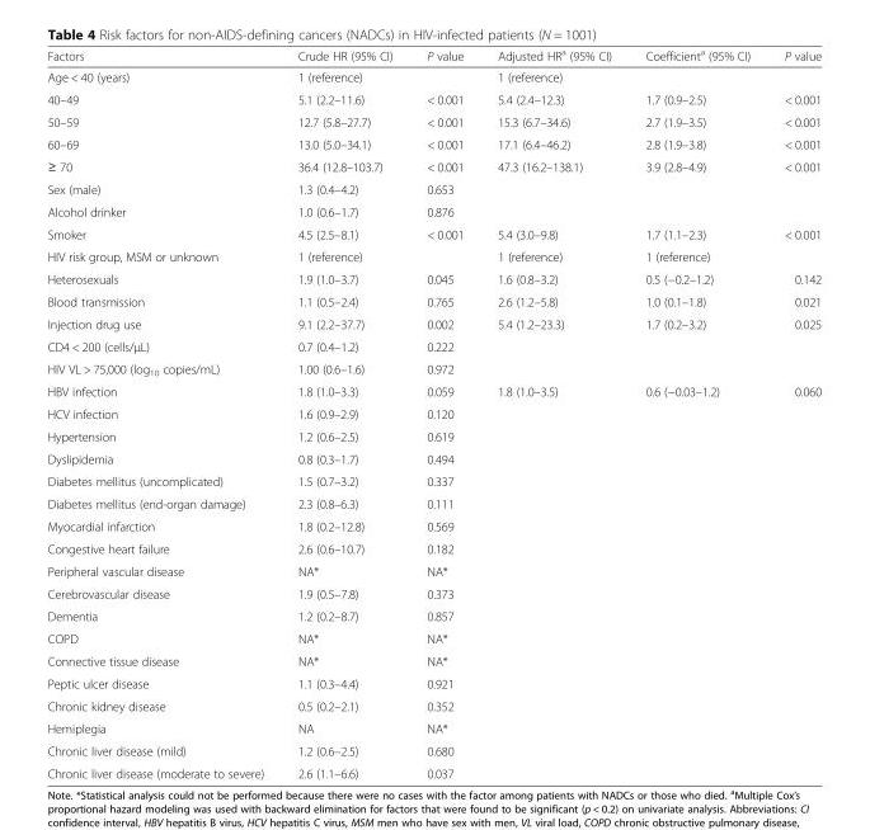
<table><thead><tr><td>Factors</td><td>Crude HR (95% CI)</td><td>P value</td><td>Adjusted HR<sup>a</sup> (95% CI)</td><td>Coefficient<sup>a</sup> (95% CI)</td><td>P value</td></tr></thead><tbody><tr><td>Age &lt; 40 (years)</td><td>1 (reference)</td><td></td><td>1 (reference)</td><td></td><td></td></tr><tr><td>40–49</td><td>5.1 (2.2–11.6)</td><td>&lt; 0.001</td><td>5.4 (2.4–12.3)</td><td>1.7 (0.9–2.5)</td><td>&lt; 0.001</td></tr><tr><td>50–59</td><td>12.7 (5.8–27.7)</td><td>&lt; 0.001</td><td>15.3 (6.7–34.6)</td><td>2.7 (1.9–3.5)</td><td>&lt; 0.001</td></tr><tr><td>60–69</td><td>13.0 (5.0–34.1)</td><td>&lt; 0.001</td><td>17.1 (6.4–46.2)</td><td>2.8 (1.9–3.8)</td><td>&lt; 0.001</td></tr><tr><td>≥ 70</td><td>36.4 (12.8–103.7)</td><td>&lt; 0.001</td><td>47.3 (16.2–138.1)</td><td>3.9 (2.8–4.9)</td><td>&lt; 0.001</td></tr><tr><td>Sex (male)</td><td>1.3 (0.4–4.2)</td><td>0.653</td><td></td><td></td><td></td></tr><tr><td>Alcohol drinker</td><td>1.0 (0.6–1.7)</td><td>0.876</td><td></td><td></td><td></td></tr><tr><td>Smoker</td><td>4.5 (2.5–8.1)</td><td>&lt; 0.001</td><td>5.4 (3.0–9.8)</td><td>1.7 (1.1–2.3)</td><td>&lt; 0.001</td></tr><tr><td>HIV risk group, MSM or unknown</td><td>1 (reference)</td><td></td><td>1 (reference)</td><td>1 (reference)</td><td></td></tr><tr><td>Heterosexuals</td><td>1.9 (1.0–3.7)</td><td>0.045</td><td>1.6 (0.8–3.2)</td><td>0.5 (−0.2–1.2)</td><td>0.142</td></tr><tr><td>Blood transmission</td><td>1.1 (0.5–2.4)</td><td>0.765</td><td>2.6 (1.2–5.8)</td><td>1.0 (0.1–1.8)</td><td>0.021</td></tr><tr><td>Injection drug use</td><td>9.1 (2.2–37.7)</td><td>0.002</td><td>5.4 (1.2–23.3)</td><td>1.7 (0.2–3.2)</td><td>0.025</td></tr><tr><td>CD4 &lt; 200 (cells/μL)</td><td>0.7 (0.4–1.2)</td><td>0.222</td><td></td><td></td><td></td></tr><tr><td>HIV VL &gt; 75,000 (log<sub>10</sub> copies/mL)</td><td>1.00 (0.6–1.6)</td><td>0.972</td><td></td><td></td><td></td></tr><tr><td>HBV infection</td><td>1.8 (1.0–3.3)</td><td>0.059</td><td>1.8 (1.0–3.5)</td><td>0.6 (−0.03–1.2)</td><td>0.060</td></tr><tr><td>HCV infection</td><td>1.6 (0.9–2.9)</td><td>0.120</td><td></td><td></td><td></td></tr><tr><td>Hypertension</td><td>1.2 (0.6–2.5)</td><td>0.619</td><td></td><td></td><td></td></tr><tr><td>Dyslipidemia</td><td>0.8 (0.3–1.7)</td><td>0.494</td><td></td><td></td><td></td></tr><tr><td>Diabetes mellitus (uncomplicated)</td><td>1.5 (0.7–3.2)</td><td>0.337</td><td></td><td></td><td></td></tr><tr><td>Diabetes mellitus (end-organ damage)</td><td>2.3 (0.8–6.3)</td><td>0.111</td><td></td><td></td><td></td></tr><tr><td>Myocardial infarction</td><td>1.8 (0.2–12.8)</td><td>0.569</td><td></td><td></td><td></td></tr><tr><td>Congestive heart failure</td><td>2.6 (0.6–10.7)</td><td>0.182</td><td></td><td></td><td></td></tr><tr><td>Peripheral vascular disease</td><td>NA*</td><td>NA*</td><td></td><td></td><td></td></tr><tr><td>Cerebrovascular disease</td><td>1.9 (0.5–7.8)</td><td>0.373</td><td></td><td></td><td></td></tr><tr><td>Dementia</td><td>1.2 (0.2–8.7)</td><td>0.857</td><td></td><td></td><td></td></tr><tr><td>COPD</td><td>NA*</td><td>NA*</td><td></td><td></td><td></td></tr><tr><td>Connective tissue disease</td><td>NA*</td><td>NA*</td><td></td><td></td><td></td></tr><tr><td>Peptic ulcer disease</td><td>1.1 (0.3–4.4)</td><td>0.921</td><td></td><td></td><td></td></tr><tr><td>Chronic kidney disease</td><td>0.5 (0.2–2.1)</td><td>0.352</td><td></td><td></td><td></td></tr><tr><td>Hemiplegia</td><td>NA</td><td>NA*</td><td></td><td></td><td></td></tr><tr><td>Chronic liver disease (mild)</td><td>1.2 (0.6–2.5)</td><td>0.680</td><td></td><td></td><td></td></tr><tr><td>Chronic liver disease (moderate to severe)</td><td>2.6 (1.1–6.6)</td><td>0.037</td><td></td><td></td><td></td></tr></tbody></table>